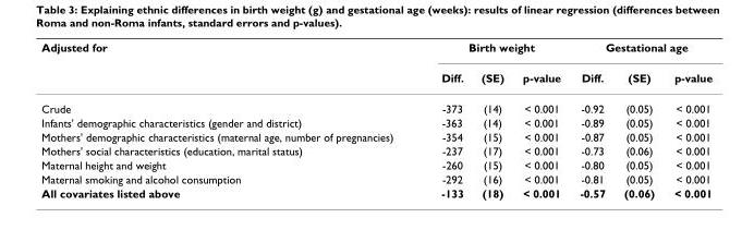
<table><thead><tr><td rowspan="2">Adjusted for</td><td colspan="3">Birth weight</td><td colspan="3">Gestational age</td></tr><tr><td>Diff.</td><td>(SE)</td><td>p-value</td><td>Diff.</td><td>(SE)</td><td>p-value</td></tr></thead><tbody><tr><td>Crude</td><td>-373</td><td>(14)</td><td>&lt; 0.001</td><td>-0.92</td><td>(0.05)</td><td>&lt; 0.001</td></tr><tr><td>Infants&#x27; demographic characteristics (gender and district)</td><td>-363</td><td>(14)</td><td>&lt; 0.001</td><td>-0.89</td><td>(0.05)</td><td>&lt; 0.001</td></tr><tr><td>Mothers&#x27; demographic characteristics (maternal age, number of pregnancies)</td><td>-354</td><td>(15)</td><td>&lt; 0.001</td><td>-0.87</td><td>(0.05)</td><td>&lt; 0.001</td></tr><tr><td>Mothers&#x27; social characteristics (education, marital status)</td><td>-237</td><td>(17)</td><td>&lt; 0.001</td><td>-0.73</td><td>(0.06)</td><td>&lt; 0.001</td></tr><tr><td>Maternal height and weight</td><td>-260</td><td>(15)</td><td>&lt; 0.001</td><td>-0.80</td><td>(0.05)</td><td>&lt; 0.001</td></tr><tr><td>Maternal smoking and alcohol consumption</td><td>-292</td><td>(16)</td><td>&lt; 0.001</td><td>-0.81</td><td>(0.05)</td><td>&lt; 0.001</td></tr><tr><td>All covariates listed above</td><td>-133</td><td>(18)</td><td>&lt; 0.001</td><td>-0.57</td><td>(0.06)</td><td>&lt; 0.001</td></tr></tbody></table>